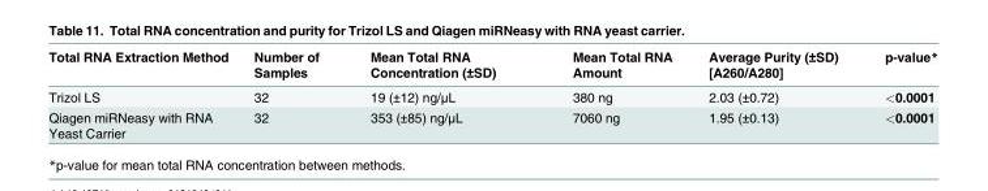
<table><thead><tr><td>Total RNA Extraction Method</td><td>Number of Samples</td><td>Mean Total RNA Concentration (±SD)</td><td>Mean Total RNA Amount</td><td>Average Purity (±SD) [A260/A280]</td><td>p-value*</td></tr></thead><tbody><tr><td>Trizol LS</td><td>32</td><td>19 (±12) ng/μL</td><td>380 ng</td><td>2.03 (±0.72)</td><td>&lt;0.0001</td></tr><tr><td>Qiagen miRNeasy with RNA Yeast Carrier</td><td>32</td><td>353 (±85) ng/μL</td><td>7060 ng</td><td>1.95 (±0.13)</td><td>&lt;0.0001</td></tr></tbody></table>